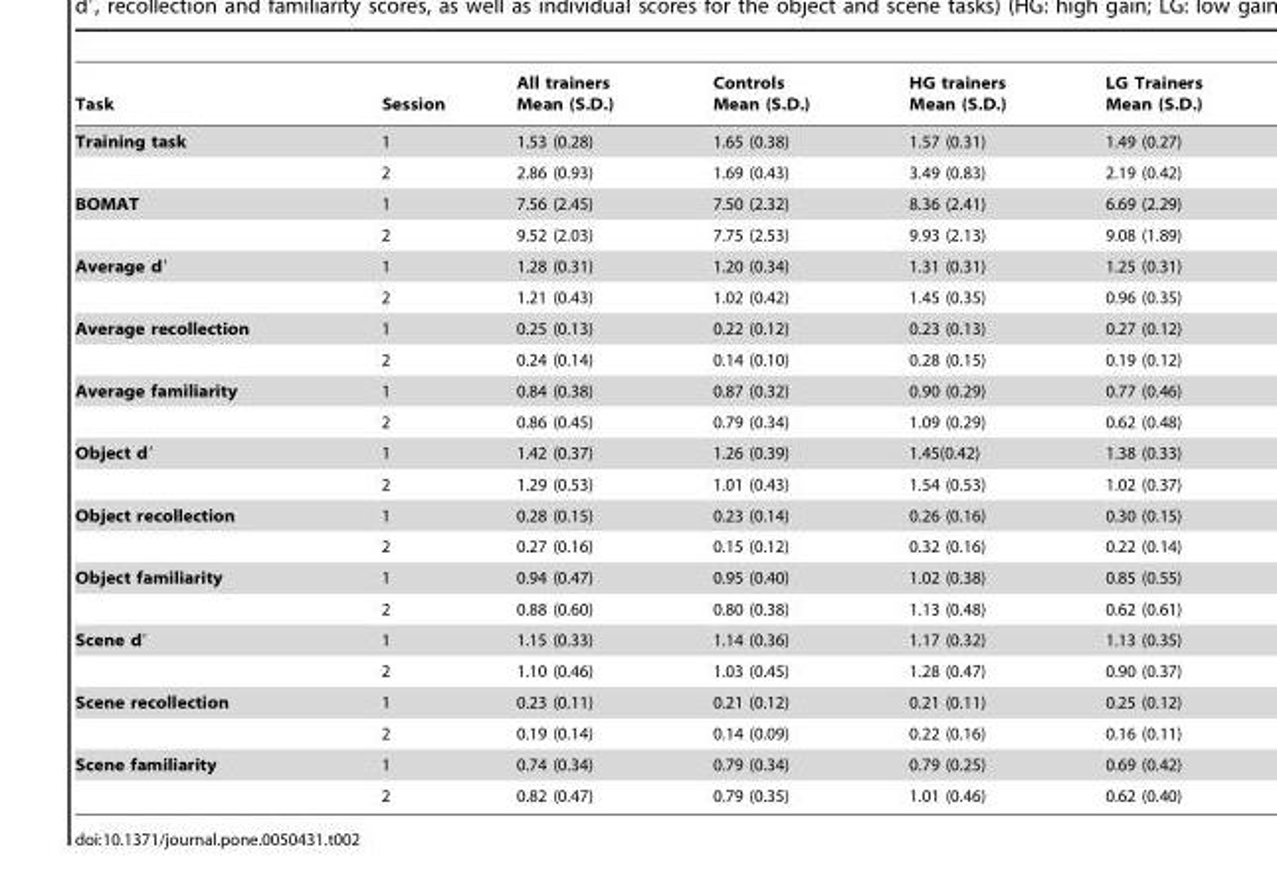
<table><thead><tr><td>Task</td><td>Session</td><td>All trainers Mean (S.D.)</td><td>Controls Mean (S.D.)</td><td>HG trainers Mean (S.D.)</td><td>LG Trainers Mean (S.D.)</td></tr></thead><tbody><tr><td rowspan="2">Training task</td><td>1</td><td>1.53 (0.28)</td><td>1.65 (0.38)</td><td>1.57 (0.31)</td><td>1.49 (0.27)</td></tr><tr><td>2</td><td>2.86 (0.93)</td><td>1.69 (0.43)</td><td>3.49 (0.83)</td><td>2.19 (0.42)</td></tr><tr><td rowspan="2">BOMAT</td><td>1</td><td>7.56 (2.45)</td><td>7.50 (2.32)</td><td>8.36 (2.41)</td><td>6.69 (2.29)</td></tr><tr><td>2</td><td>9.52 (2.03)</td><td>7.75 (2.53)</td><td>9.93 (2.13)</td><td>9.08 (1.89)</td></tr><tr><td rowspan="2">Average d′</td><td>1</td><td>1.28 (0.31)</td><td>1.20 (0.34)</td><td>1.31 (0.31)</td><td>1.25 (0.31)</td></tr><tr><td>2</td><td>1.21 (0.43)</td><td>1.02 (0.42)</td><td>1.45 (0.35)</td><td>0.96 (0.35)</td></tr><tr><td rowspan="2">Average recollection</td><td>1</td><td>0.25 (0.13)</td><td>0.22 (0.12)</td><td>0.23 (0.13)</td><td>0.27 (0.12)</td></tr><tr><td>2</td><td>0.24 (0.14)</td><td>0.14 (0.10)</td><td>0.28 (0.15)</td><td>0.19 (0.12)</td></tr><tr><td rowspan="2">Average familiarity</td><td>1</td><td>0.84 (0.38)</td><td>0.87 (0.32)</td><td>0.90 (0.29)</td><td>0.77 (0.46)</td></tr><tr><td>2</td><td>0.86 (0.45)</td><td>0.79 (0.34)</td><td>1.09 (0.29)</td><td>0.62 (0.48)</td></tr><tr><td rowspan="2">Object d′</td><td>1</td><td>1.42 (0.37)</td><td>1.26 (0.39)</td><td>1.45(0.42)</td><td>1.38 (0.33)</td></tr><tr><td>2</td><td>1.29 (0.53)</td><td>1.01 (0.43)</td><td>1.54 (0.53)</td><td>1.02 (0.37)</td></tr><tr><td rowspan="2">Object recollection</td><td>1</td><td>0.28 (0.15)</td><td>0.23 (0.14)</td><td>0.26 (0.16)</td><td>0.30 (0.15)</td></tr><tr><td>2</td><td>0.27 (0.16)</td><td>0.15 (0.12)</td><td>0.32 (0.16)</td><td>0.22 (0.14)</td></tr><tr><td rowspan="2">Object familiarity</td><td>1</td><td>0.94 (0.47)</td><td>0.95 (0.40)</td><td>1.02 (0.38)</td><td>0.85 (0.55)</td></tr><tr><td>2</td><td>0.88 (0.60)</td><td>0.80 (0.38)</td><td>1.13 (0.48)</td><td>0.62 (0.61)</td></tr><tr><td rowspan="2">Scene d′</td><td>1</td><td>1.15 (0.33)</td><td>1.14 (0.36)</td><td>1.17 (0.32)</td><td>1.13 (0.35)</td></tr><tr><td>2</td><td>1.10 (0.46)</td><td>1.03 (0.45)</td><td>1.28 (0.47)</td><td>0.90 (0.37)</td></tr><tr><td rowspan="2">Scene recollection</td><td>1</td><td>0.23 (0.11)</td><td>0.21 (0.12)</td><td>0.21 (0.11)</td><td>0.25 (0.12)</td></tr><tr><td>2</td><td>0.19 (0.14)</td><td>0.14 (0.09)</td><td>0.22 (0.16)</td><td>0.16 (0.11)</td></tr><tr><td rowspan="2">Scene familiarity</td><td>1</td><td>0.74 (0.34)</td><td>0.79 (0.34)</td><td>0.79 (0.25)</td><td>0.69 (0.42)</td></tr><tr><td>2</td><td>0.82 (0.47)</td><td>0.79 (0.35)</td><td>1.01 (0.46)</td><td>0.62 (0.40)</td></tr></tbody></table>